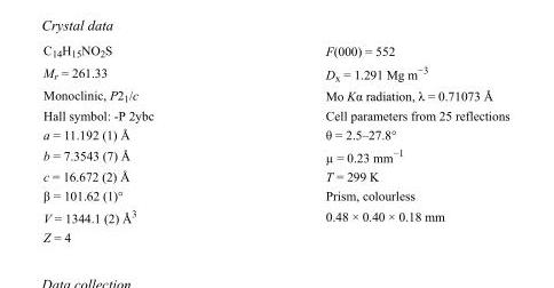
<table><tbody><tr><td>C<sub>14</sub>H<sub>15</sub>NO<sub>2</sub>S</td><td>F(000) = 552</td></tr><tr><td>M<sub>r</sub> = 261.33</td><td>D<sub>x</sub> = 1.291 Mg m<sup>−3</sup></td></tr><tr><td>Monoclinic, P2<sub>1</sub>/c</td><td>Mo Kα radiation, λ = 0.71073 Å</td></tr><tr><td>Hall symbol: -P 2ybc</td><td>Cell parameters from 25 reflections</td></tr><tr><td>a = 11.192 (1) Å</td><td>θ = 2.5–27.8°</td></tr><tr><td>b = 7.3543 (7) Å</td><td>µ = 0.23 mm<sup>−1</sup></td></tr><tr><td>c = 16.672 (2) Å</td><td>T = 299 K</td></tr><tr><td>β = 101.62 (1)°</td><td>Prism, colourless</td></tr><tr><td>V = 1344.1 (2) Å<sup>3</sup></td><td>0.48 × 0.40 × 0.18 mm</td></tr><tr><td>Z = 4</td><td></td></tr></tbody></table>